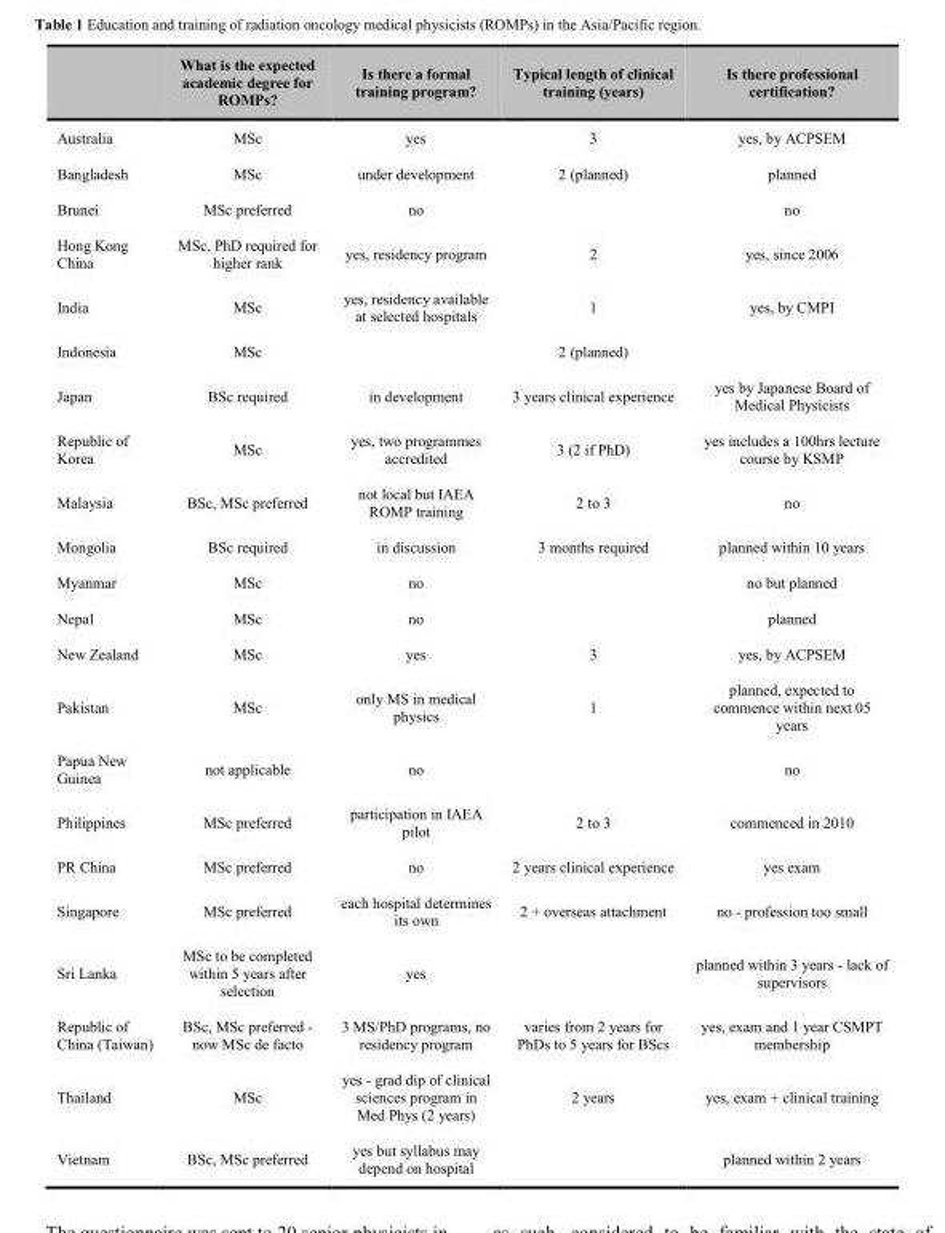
<table><thead><tr><td></td><td>What is the expected academic degree for ROMPs?</td><td>Is there a formal training program?</td><td>Typical length of clinical training (years)</td><td>Is there professional certification?</td></tr></thead><tbody><tr><td>Australia</td><td>MSc</td><td>yes</td><td>3</td><td>yes, by ACPSEM</td></tr><tr><td>Bangladesh</td><td>MSc</td><td>under development</td><td>2 (planned)</td><td>planned</td></tr><tr><td>Brunei</td><td>MSc preferred</td><td>no</td><td></td><td>no</td></tr><tr><td>Hong Kong China</td><td>MSc, PhD required for higher rank</td><td>yes, residency program</td><td>2</td><td>yes, since 2006</td></tr><tr><td>India</td><td>MSc</td><td>yes, residency available at selected hospitals</td><td>1</td><td>yes, by CMPI</td></tr><tr><td>Indonesia</td><td>MSc</td><td></td><td>2 (planned)</td><td></td></tr><tr><td>Japan</td><td>BSc required</td><td>in development</td><td>3 years clinical experience</td><td>yes by Japanese Board of Medical Physicists</td></tr><tr><td>Republic of Korea</td><td>MSc</td><td>yes, two programmes accredited</td><td>3 (2 if PhD)</td><td>yes includes a 100hrs lecture course by KSMP</td></tr><tr><td>Malaysia</td><td>BSc, MSc preferred</td><td>not local but IAEA ROMP training</td><td>2 to 3</td><td>no</td></tr><tr><td>Mongolia</td><td>BSc required</td><td>in discussion</td><td>3 months required</td><td>planned within 10 years</td></tr><tr><td>Myanmar</td><td>MSc</td><td>no</td><td></td><td>no but planned</td></tr><tr><td>Nepal</td><td>MSc</td><td>no</td><td></td><td>planned</td></tr><tr><td>New Zealand</td><td>MSc</td><td>yes</td><td>3</td><td>yes, by ACPSEM</td></tr><tr><td>Pakistan</td><td>MSc</td><td>only MS in medical physics</td><td>1</td><td>planned, expected to commence within next 05 years</td></tr><tr><td>Papua New Guinea</td><td>not applicable</td><td>no</td><td></td><td>no</td></tr><tr><td>Philippines</td><td>MSc preferred</td><td>participation in IAEA pilot</td><td>2 to 3</td><td>commenced in 2010</td></tr><tr><td>PR China</td><td>MSc preferred</td><td>no</td><td>2 years clinical experience</td><td>yes exam</td></tr><tr><td>Singapore</td><td>MSc preferred</td><td>each hospital determines its own</td><td>2 + overseas attachment</td><td>no - profession too small</td></tr><tr><td>Sri Lanka</td><td>MSc to be completed within 5 years after selection</td><td>yes</td><td></td><td>planned within 3 years - lack of supervisors</td></tr><tr><td>Republic of China (Taiwan)</td><td>BSc, MSc preferred - now MSc de facto</td><td>3 MS/PhD programs, no residency program</td><td>varies from 2 years for PhDs to 5 years for BScs</td><td>yes, exam and 1 year CSMPT membership</td></tr><tr><td>Thailand</td><td>MSc</td><td>yes - grad dip of clinical sciences program in Med Phys (2 years)</td><td>2 years</td><td>yes, exam + clinical training</td></tr><tr><td>Vietnam</td><td>BSc, MSc preferred</td><td>yes but syllabus may depend on hospital</td><td></td><td>planned within 2 years</td></tr></tbody></table>